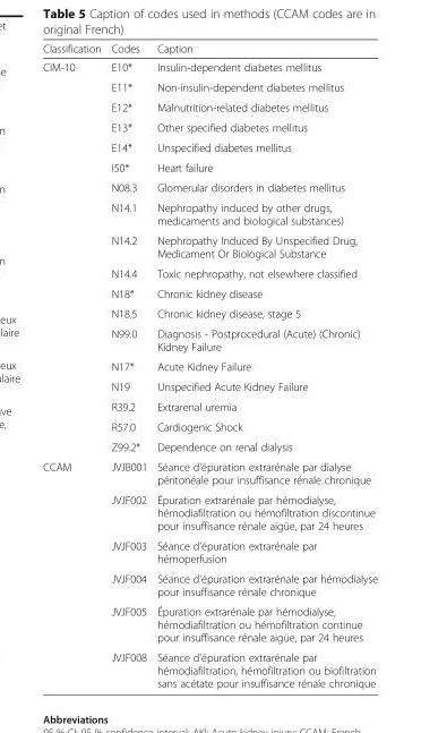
<table><thead><tr><td>Classification</td><td>Codes</td><td>Caption</td></tr></thead><tbody><tr><td rowspan="18">CIM-10</td><td>E10*</td><td>Insulin-dependent diabetes mellitus</td></tr><tr><td>E11*</td><td>Non-insulin-dependent diabetes mellitus</td></tr><tr><td>E12*</td><td>Malnutrition-related diabetes mellitus</td></tr><tr><td>E13*</td><td>Other specified diabetes mellitus</td></tr><tr><td>E14*</td><td>Unspecified diabetes mellitus</td></tr><tr><td>I50*</td><td>Heart failure</td></tr><tr><td>N08.3</td><td>Glomerular disorders in diabetes mellitus</td></tr><tr><td>N14.1</td><td>Nephropathy induced by other drugs, medicaments and biological substances)</td></tr><tr><td>N14.2</td><td>Nephropathy Induced By Unspecified Drug, Medicament Or Biological Substance</td></tr><tr><td>N14.4</td><td>Toxic nephropathy, not elsewhere classified</td></tr><tr><td>N18*</td><td>Chronic kidney disease</td></tr><tr><td>N18.5</td><td>Chronic kidney disease, stage 5</td></tr><tr><td>N99.0</td><td>Diagnosis - Postprocedural (Acute) (Chronic) Kidney Failure</td></tr><tr><td>N17*</td><td>Acute Kidney Failure</td></tr><tr><td>N19</td><td>Unspecified Acute Kidney Failure</td></tr><tr><td>R39.2</td><td>Extrarenal uremia</td></tr><tr><td>R57.0</td><td>Cardiogenic Shock</td></tr><tr><td>Z99.2*</td><td>Dependence on renal dialysis</td></tr><tr><td rowspan="6">CCAM</td><td>JVJB001</td><td>Séance d&#x27;épuration extrarénale par dialyse péritonéale pour insuffisance rénale chronique</td></tr><tr><td>JVJF002</td><td>Épuration extrarénale par hémodialyse, hémodiafiltration ou hémofiltration discontinue pour insuffisance rénale aigüe, par 24 heures</td></tr><tr><td>JVJF003</td><td>Séance d&#x27;épuration extrarénale par hémoperfusion</td></tr><tr><td>JVJF004</td><td>Séance d&#x27;épuration extrarénale par hémodialyse pour insuffisance rénale chronique</td></tr><tr><td>JVJF005</td><td>Épuration extrarénale par hémodialyse, hémodiafiltration ou hémofiltration continue pour insuffisance rénale aigüe, par 24 heures</td></tr><tr><td>JVJF008</td><td>Séance d&#x27;épuration extrarénale par hémodiafiltration, hémofiltration ou biofiltration sans acétate pour insuffisance rénale chronique</td></tr></tbody></table>